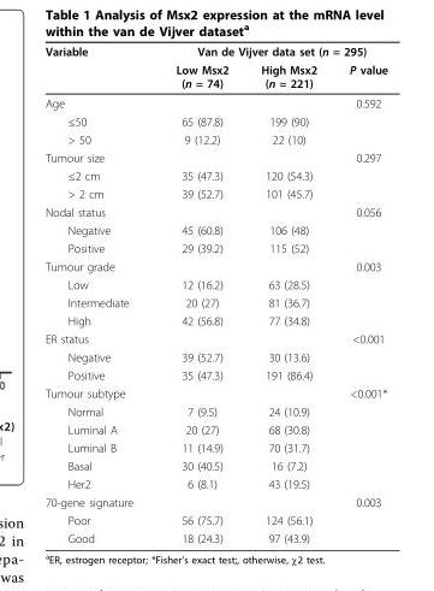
<table><thead><tr><td rowspan="2">Variable</td><td colspan="3">Van de Vijver data set (n = 295)</td></tr><tr><td>Low Msx2 (n = 74)</td><td>High Msx2 (n = 221)</td><td>P value</td></tr></thead><tbody><tr><td>Age</td><td></td><td></td><td>0.592</td></tr><tr><td>≤50</td><td>65 (87.8)</td><td>199 (90)</td><td></td></tr><tr><td>&gt; 50</td><td>9 (12.2)</td><td>22 (10)</td><td></td></tr><tr><td>Tumour size</td><td></td><td></td><td>0.297</td></tr><tr><td>≤2 cm</td><td>35 (47.3)</td><td>120 (54.3)</td><td></td></tr><tr><td>&gt; 2 cm</td><td>39 (52.7)</td><td>101 (45.7)</td><td></td></tr><tr><td>Nodal status</td><td></td><td></td><td>0.056</td></tr><tr><td>Negative</td><td>45 (60.8)</td><td>106 (48)</td><td></td></tr><tr><td>Positive</td><td>29 (39.2)</td><td>115 (52)</td><td></td></tr><tr><td>Tumour grade</td><td></td><td></td><td>0.003</td></tr><tr><td>Low</td><td>12 (16.2)</td><td>63 (28.5)</td><td></td></tr><tr><td>Intermediate</td><td>20 (27)</td><td>81 (36.7)</td><td></td></tr><tr><td>High</td><td>42 (56.8)</td><td>77 (34.8)</td><td></td></tr><tr><td>ER status</td><td></td><td></td><td>&lt;0.001</td></tr><tr><td>Negative</td><td>39 (52.7)</td><td>30 (13.6)</td><td></td></tr><tr><td>Positive</td><td>35 (47.3)</td><td>191 (86.4)</td><td></td></tr><tr><td>Tumour subtype</td><td></td><td></td><td>&lt;0.001*</td></tr><tr><td>Normal</td><td>7 (9.5)</td><td>24 (10.9)</td><td></td></tr><tr><td>Luminal A</td><td>20 (27)</td><td>68 (30.8)</td><td></td></tr><tr><td>Luminal B</td><td>11 (14.9)</td><td>70 (31.7)</td><td></td></tr><tr><td>Basal</td><td>30 (40.5)</td><td>16 (7.2)</td><td></td></tr><tr><td>Her2</td><td>6 (8.1)</td><td>43 (19.5)</td><td></td></tr><tr><td>70-gene signature</td><td></td><td></td><td>0.003</td></tr><tr><td>Poor</td><td>56 (75.7)</td><td>124 (56.1)</td><td></td></tr><tr><td>Good</td><td>18 (24.3)</td><td>97 (43.9)</td><td></td></tr></tbody></table>